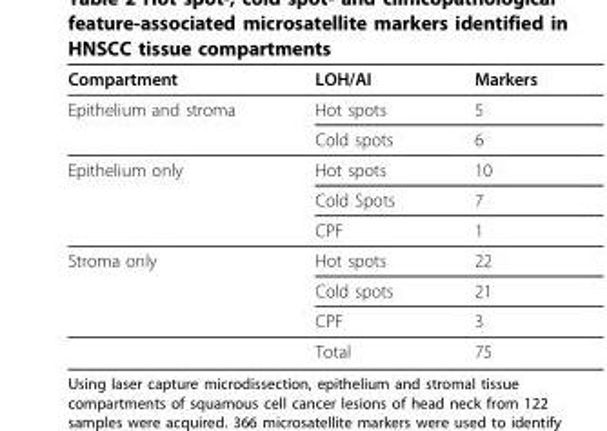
<table><thead><tr><td>Compartment</td><td>LOH/AI</td><td>Markers</td></tr></thead><tbody><tr><td rowspan="2">Epithelium and stroma</td><td>Hot spots</td><td>5</td></tr><tr><td>Cold spots</td><td>6</td></tr><tr><td rowspan="3">Epithelium only</td><td>Hot spots</td><td>10</td></tr><tr><td>Cold Spots</td><td>7</td></tr><tr><td>CPF</td><td>1</td></tr><tr><td rowspan="4">Stroma only</td><td>Hot spots</td><td>22</td></tr><tr><td>Cold spots</td><td>21</td></tr><tr><td>CPF</td><td>3</td></tr><tr><td>Total</td><td>75</td></tr></tbody></table>